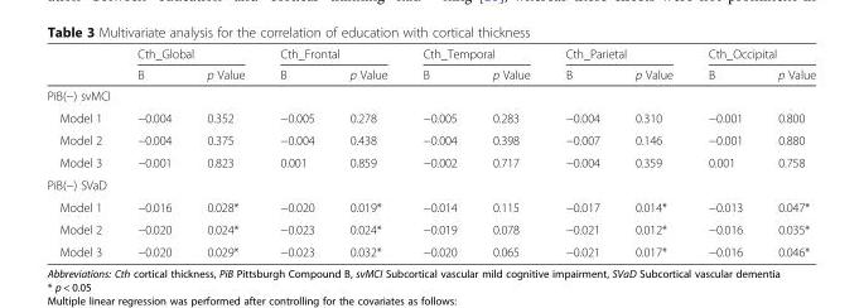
<table><thead><tr><td rowspan="2"></td><td colspan="2">Cth_Global</td><td colspan="2">Cth_Frontal</td><td colspan="2">Cth_Temporal</td><td colspan="2">Cth_Parietal</td><td colspan="2">Cth_Occipital</td></tr><tr><td>B</td><td>p Value</td><td>B</td><td>p Value</td><td>B</td><td>p Value</td><td>B</td><td>p Value</td><td>B</td><td>p Value</td></tr></thead><tbody><tr><td colspan="11">PiB(−) svMCI</td></tr><tr><td>Model 1</td><td>−0.004</td><td>0.352</td><td>−0.005</td><td>0.278</td><td>−0.005</td><td>0.283</td><td>−0.004</td><td>0.310</td><td>−0.001</td><td>0.800</td></tr><tr><td>Model 2</td><td>−0.004</td><td>0.375</td><td>−0.004</td><td>0.438</td><td>−0.004</td><td>0.398</td><td>−0.007</td><td>0.146</td><td>−0.001</td><td>0.880</td></tr><tr><td>Model 3</td><td>−0.001</td><td>0.823</td><td>0.001</td><td>0.859</td><td>−0.002</td><td>0.717</td><td>−0.004</td><td>0.359</td><td>0.001</td><td>0.758</td></tr><tr><td colspan="11">PiB(−) SVaD</td></tr><tr><td>Model 1</td><td>−0.016</td><td>0.028*</td><td>−0.020</td><td>0.019*</td><td>−0.014</td><td>0.115</td><td>−0.017</td><td>0.014*</td><td>−0.013</td><td>0.047*</td></tr><tr><td>Model 2</td><td>−0.020</td><td>0.024*</td><td>−0.023</td><td>0.024*</td><td>−0.019</td><td>0.078</td><td>−0.021</td><td>0.012*</td><td>−0.016</td><td>0.035*</td></tr><tr><td>Model 3</td><td>−0.020</td><td>0.029*</td><td>−0.023</td><td>0.032*</td><td>−0.020</td><td>0.065</td><td>−0.021</td><td>0.017*</td><td>−0.016</td><td>0.046*</td></tr></tbody></table>